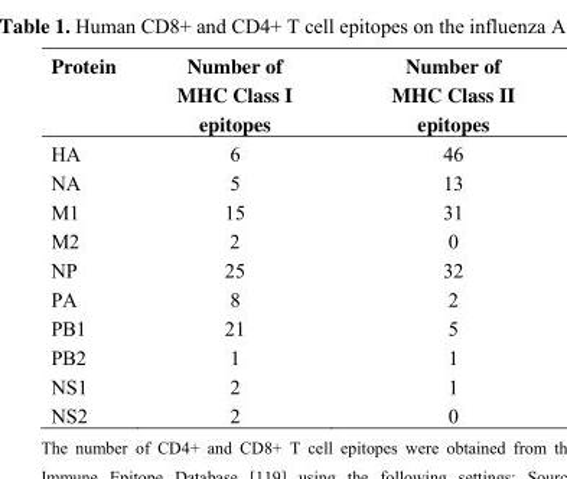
<table><thead><tr><td>Protein</td><td>Number of MHC Class I epitopes</td><td>Number of MHC Class II epitopes</td></tr></thead><tbody><tr><td>HA</td><td>6</td><td>46</td></tr><tr><td>NA</td><td>5</td><td>13</td></tr><tr><td>M1</td><td>15</td><td>31</td></tr><tr><td>M2</td><td>2</td><td>0</td></tr><tr><td>NP</td><td>25</td><td>32</td></tr><tr><td>PA</td><td>8</td><td>2</td></tr><tr><td>PB1</td><td>21</td><td>5</td></tr><tr><td>PB2</td><td>1</td><td>1</td></tr><tr><td>NS1</td><td>2</td><td>1</td></tr><tr><td>NS2</td><td>2</td><td>0</td></tr></tbody></table>